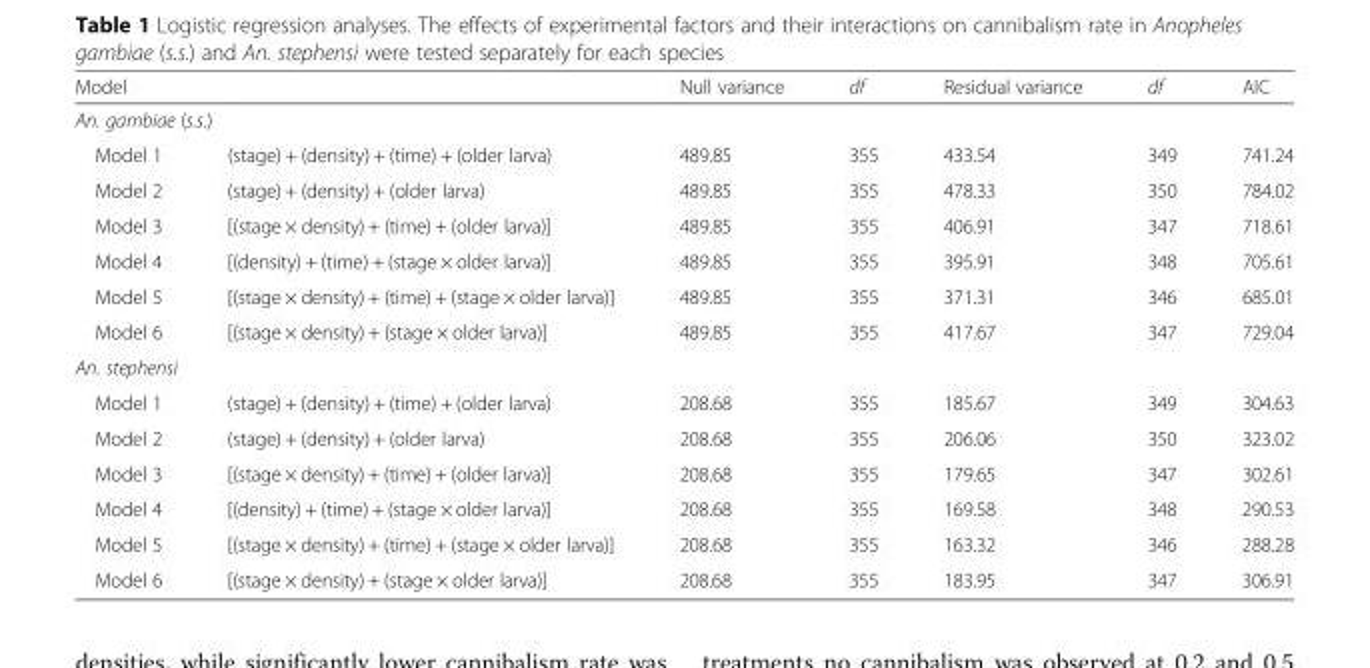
<table><thead><tr><td>Model</td><td></td><td>Null variance</td><td>df</td><td>Residual variance</td><td>df</td><td>AIC</td></tr></thead><tbody><tr><td colspan="7">An. gambiae (s.s.)</td></tr><tr><td>Model 1</td><td>(stage) + (density) + (time) + (older larva)</td><td>489.85</td><td>355</td><td>433.54</td><td>349</td><td>741.24</td></tr><tr><td>Model 2</td><td>(stage) + (density) + (older larva)</td><td>489.85</td><td>355</td><td>478.33</td><td>350</td><td>784.02</td></tr><tr><td>Model 3</td><td>[(stage × density) + (time) + (older larva)]</td><td>489.85</td><td>355</td><td>406.91</td><td>347</td><td>718.61</td></tr><tr><td>Model 4</td><td>[(density) + (time) + (stage × older larva)]</td><td>489.85</td><td>355</td><td>395.91</td><td>348</td><td>705.61</td></tr><tr><td>Model 5</td><td>[(stage × density) + (time) + (stage × older larva)]</td><td>489.85</td><td>355</td><td>371.31</td><td>346</td><td>685.01</td></tr><tr><td>Model 6</td><td>[(stage × density) + (stage × older larva)]</td><td>489.85</td><td>355</td><td>417.67</td><td>347</td><td>729.04</td></tr><tr><td colspan="7">An. stephensi</td></tr><tr><td>Model 1</td><td>(stage) + (density) + (time) + (older larva)</td><td>208.68</td><td>355</td><td>185.67</td><td>349</td><td>304.63</td></tr><tr><td>Model 2</td><td>(stage) + (density) + (older larva)</td><td>208.68</td><td>355</td><td>206.06</td><td>350</td><td>323.02</td></tr><tr><td>Model 3</td><td>[(stage × density) + (time) + (older larva)]</td><td>208.68</td><td>355</td><td>179.65</td><td>347</td><td>302.61</td></tr><tr><td>Model 4</td><td>[(density) + (time) + (stage × older larva)]</td><td>208.68</td><td>355</td><td>169.58</td><td>348</td><td>290.53</td></tr><tr><td>Model 5</td><td>[(stage × density) + (time) + (stage × older larva)]</td><td>208.68</td><td>355</td><td>163.32</td><td>346</td><td>288.28</td></tr><tr><td>Model 6</td><td>[(stage × density) + (stage × older larva)]</td><td>208.68</td><td>355</td><td>183.95</td><td>347</td><td>306.91</td></tr></tbody></table>